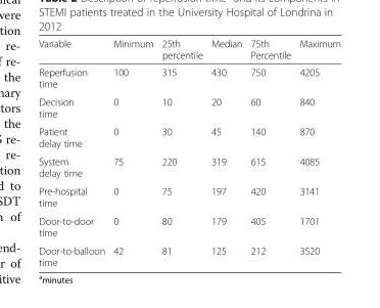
<table><thead><tr><td>Variable</td><td>Minimum</td><td>25th percentile</td><td>Median</td><td>75th Percentile</td><td>Maximum</td></tr></thead><tbody><tr><td>Reperfusion time</td><td>100</td><td>315</td><td>430</td><td>750</td><td>4205</td></tr><tr><td>Decision time</td><td>0</td><td>10</td><td>20</td><td>60</td><td>840</td></tr><tr><td>Patient delay time</td><td>0</td><td>30</td><td>45</td><td>140</td><td>870</td></tr><tr><td>System delay time</td><td>75</td><td>220</td><td>319</td><td>615</td><td>4085</td></tr><tr><td>Pre-hospital time</td><td>0</td><td>75</td><td>197</td><td>420</td><td>3141</td></tr><tr><td>Door-to-door time</td><td>0</td><td>80</td><td>179</td><td>405</td><td>1701</td></tr><tr><td>Door-to-balloon time</td><td>42</td><td>81</td><td>125</td><td>212</td><td>3520</td></tr></tbody></table>